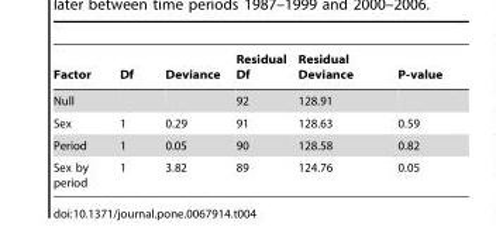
<table><thead><tr><td>Factor</td><td>Df</td><td>Deviance</td><td>Residual Df</td><td>Residual Deviance</td><td>P-value</td></tr></thead><tbody><tr><td>Null</td><td></td><td></td><td>92</td><td>128.91</td><td></td></tr><tr><td>Sex</td><td>1</td><td>0.29</td><td>91</td><td>128.63</td><td>0.59</td></tr><tr><td>Period</td><td>1</td><td>0.05</td><td>90</td><td>128.58</td><td>0.82</td></tr><tr><td>Sex by period</td><td>1</td><td>3.82</td><td>89</td><td>124.76</td><td>0.05</td></tr></tbody></table>